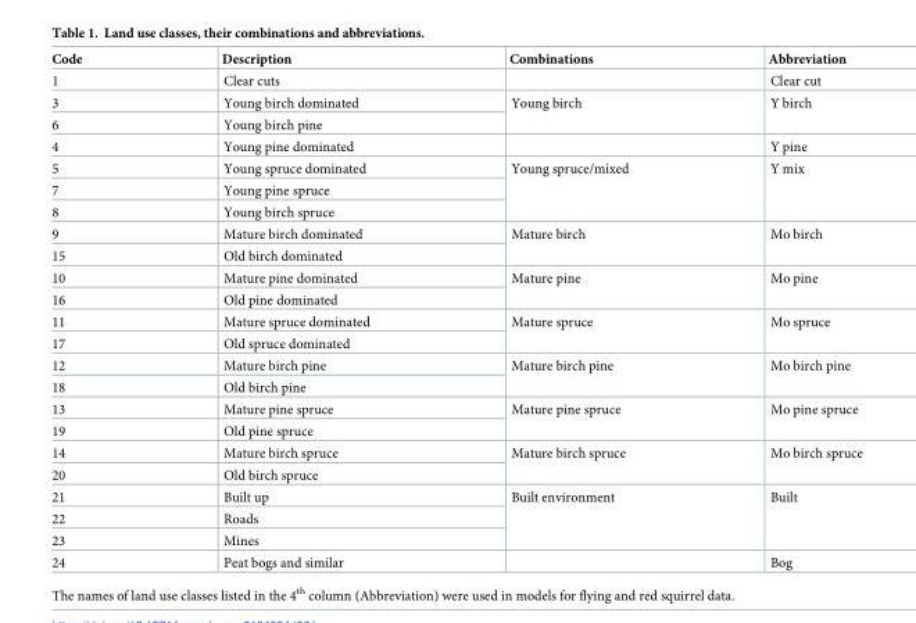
<table><thead><tr><td>Code</td><td>Description</td><td>Combinations</td><td>Abbreviation</td></tr></thead><tbody><tr><td>1</td><td>Clear cuts</td><td></td><td>Clear cut</td></tr><tr><td>3</td><td>Young birch dominated</td><td rowspan="2">Young birch</td><td rowspan="2">Y birch</td></tr><tr><td>6</td><td>Young birch pine</td></tr><tr><td>4</td><td>Young pine dominated</td><td></td><td>Y pine</td></tr><tr><td>5</td><td>Young spruce dominated</td><td rowspan="3">Young spruce/mixed</td><td rowspan="3">Y mix</td></tr><tr><td>7</td><td>Young pine spruce</td></tr><tr><td>8</td><td>Young birch spruce</td></tr><tr><td>9</td><td>Mature birch dominated</td><td rowspan="2">Mature birch</td><td rowspan="2">Mo birch</td></tr><tr><td>15</td><td>Old birch dominated</td></tr><tr><td>10</td><td>Mature pine dominated</td><td rowspan="2">Mature pine</td><td rowspan="2">Mo pine</td></tr><tr><td>16</td><td>Old pine dominated</td></tr><tr><td>11</td><td>Mature spruce dominated</td><td rowspan="2">Mature spruce</td><td rowspan="2">Mo spruce</td></tr><tr><td>17</td><td>Old spruce dominated</td></tr><tr><td>12</td><td>Mature birch pine</td><td rowspan="2">Mature birch pine</td><td rowspan="2">Mo birch pine</td></tr><tr><td>18</td><td>Old birch pine</td></tr><tr><td>13</td><td>Mature pine spruce</td><td rowspan="2">Mature pine spruce</td><td rowspan="2">Mo pine spruce</td></tr><tr><td>19</td><td>Old pine spruce</td></tr><tr><td>14</td><td>Mature birch spruce</td><td rowspan="2">Mature birch spruce</td><td rowspan="2">Mo birch spruce</td></tr><tr><td>20</td><td>Old birch spruce</td></tr><tr><td>21</td><td>Built up</td><td rowspan="3">Built environment</td><td rowspan="3">Built</td></tr><tr><td>22</td><td>Roads</td></tr><tr><td>23</td><td>Mines</td></tr><tr><td>24</td><td>Peat bogs and similar</td><td></td><td>Bog</td></tr></tbody></table>